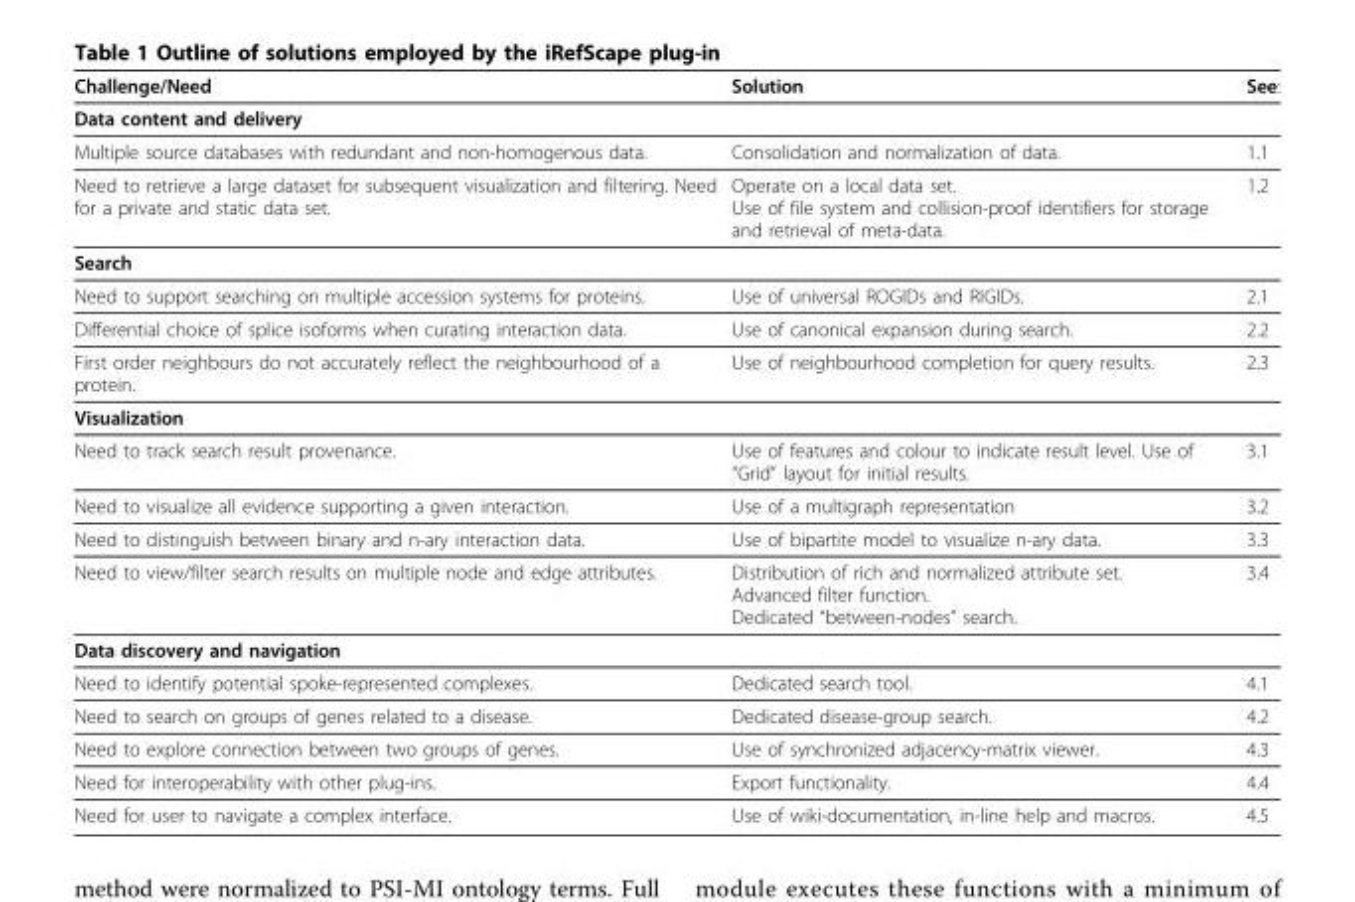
<table><thead><tr><td>Challenge/Need</td><td>Solution</td><td>See:</td></tr></thead><tbody><tr><td colspan="3">Data content and delivery</td></tr><tr><td>Multiple source databases with redundant and non-homogenous data.</td><td>Consolidation and normalization of data.</td><td>1.1</td></tr><tr><td>Need to retrieve a large dataset for subsequent visualization and filtering. Need for a private and static data set.</td><td>Operate on a local data set. Use of file system and collision-proof identifiers for storage and retrieval of meta-data.</td><td>1.2</td></tr><tr><td colspan="3">Search</td></tr><tr><td>Need to support searching on multiple accession systems for proteins.</td><td>Use of universal ROGIDs and RIGIDs.</td><td>2.1</td></tr><tr><td>Differential choice of splice isoforms when curating interaction data.</td><td>Use of canonical expansion during search.</td><td>2.2</td></tr><tr><td>First order neighbours do not accurately reflect the neighbourhood of a protein.</td><td>Use of neighbourhood completion for query results.</td><td>2.3</td></tr><tr><td colspan="3">Visualization</td></tr><tr><td>Need to track search result provenance.</td><td>Use of features and colour to indicate result level. Use of “Grid” layout for initial results.</td><td>3.1</td></tr><tr><td>Need to visualize all evidence supporting a given interaction.</td><td>Use of a multigraph representation</td><td>3.2</td></tr><tr><td>Need to distinguish between binary and n-ary interaction data.</td><td>Use of bipartite model to visualize n-ary data.</td><td>3.3</td></tr><tr><td>Need to view/filter search results on multiple node and edge attributes.</td><td>Distribution of rich and normalized attribute set. Advanced filter function. Dedicated “between-nodes” search.</td><td>3.4</td></tr><tr><td colspan="3">Data discovery and navigation</td></tr><tr><td>Need to identify potential spoke-represented complexes.</td><td>Dedicated search tool.</td><td>4.1</td></tr><tr><td>Need to search on groups of genes related to a disease.</td><td>Dedicated disease-group search.</td><td>4.2</td></tr><tr><td>Need to explore connection between two groups of genes.</td><td>Use of synchronized adjacency-matrix viewer.</td><td>4.3</td></tr><tr><td>Need for interoperability with other plug-ins.</td><td>Export functionality.</td><td>4.4</td></tr><tr><td>Need for user to navigate a complex interface.</td><td>Use of wiki-documentation, in-line help and macros.</td><td>4.5</td></tr></tbody></table>